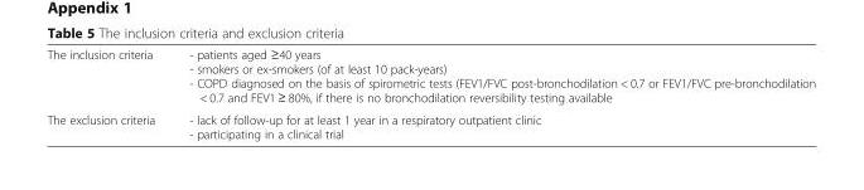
<table><tbody><tr><td>The inclusion criteria</td><td>- patients aged ≥40 years - smokers or ex-smokers (of at least 10 pack-years) - COPD diagnosed on the basis of spirometric tests (FEV1/FVC post-bronchodilation &lt; 0.7 or FEV1/FVC pre-bronchodilation &lt; 0.7 and FEV1 ≥ 80%, if there is no bronchodilation reversibility testing available</td></tr><tr><td>The exclusion criteria</td><td>- lack of follow-up for at least 1 year in a respiratory outpatient clinic - participating in a clinical trial</td></tr></tbody></table>